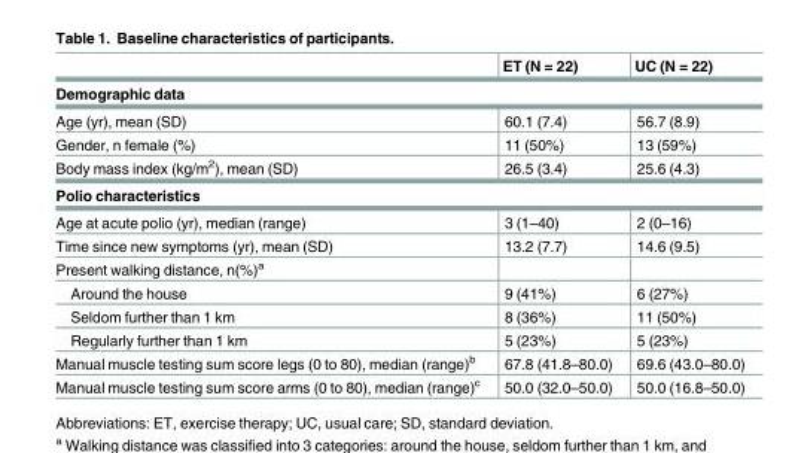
<table><thead><tr><td></td><td>ET (N = 22)</td><td>UC (N = 22)</td></tr></thead><tbody><tr><td colspan="3">Demographic data</td></tr><tr><td>Age (yr), mean (SD)</td><td>60.1 (7.4)</td><td>56.7 (8.9)</td></tr><tr><td>Gender, n female (%)</td><td>11 (50%)</td><td>13 (59%)</td></tr><tr><td>Body mass index (kg/m<sup>2</sup>), mean (SD)</td><td>26.5 (3.4)</td><td>25.6 (4.3)</td></tr><tr><td colspan="3">Polio characteristics</td></tr><tr><td>Age at acute polio (yr), median (range)</td><td>3 (1–40)</td><td>2 (0–16)</td></tr><tr><td>Time since new symptoms (yr), mean (SD)</td><td>13.2 (7.7)</td><td>14.6 (9.5)</td></tr><tr><td colspan="3">Present walking distance, n(%)<sup>a</sup></td></tr><tr><td>Around the house</td><td>9 (41%)</td><td>6 (27%)</td></tr><tr><td>Seldom further than 1 km</td><td>8 (36%)</td><td>11 (50%)</td></tr><tr><td>Regularly further than 1 km</td><td>5 (23%)</td><td>5 (23%)</td></tr><tr><td>Manual muscle testing sum score legs (0 to 80), median (range)<sup>b</sup></td><td>67.8 (41.8–80.0)</td><td>69.6 (43.0–80.0)</td></tr><tr><td>Manual muscle testing sum score arms (0 to 80), median (range)<sup>c</sup></td><td>50.0 (32.0–50.0)</td><td>50.0 (16.8–50.0)</td></tr></tbody></table>